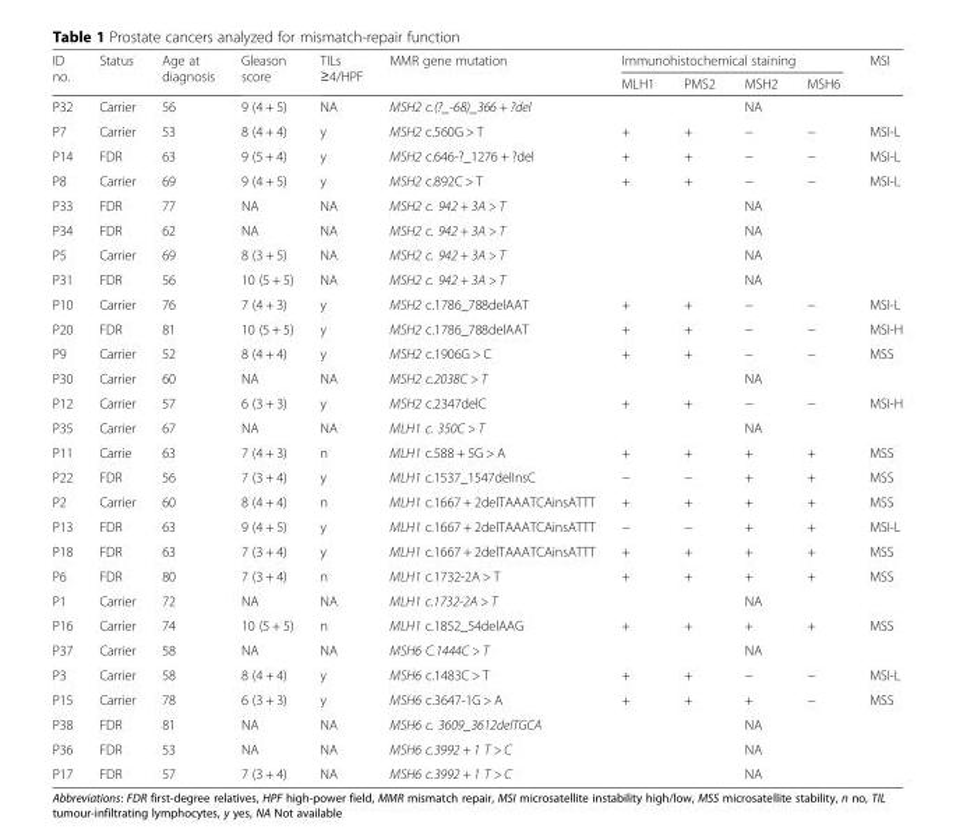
<table><thead><tr><td rowspan="2">ID no.</td><td rowspan="2">Status</td><td rowspan="2">Age at diagnosis</td><td rowspan="2">Gleason score</td><td rowspan="2">TILs ≥4/HPF</td><td rowspan="2">MMR gene mutation</td><td colspan="4">Immunohistochemical staining</td><td rowspan="2">MSI</td></tr><tr><td>MLH1</td><td>PMS2</td><td>MSH2</td><td>MSH6</td></tr></thead><tbody><tr><td>P32</td><td>Carrier</td><td>56</td><td>9 (4 + 5)</td><td>NA</td><td>MSH2 c.(?_-68)_366 + ?del</td><td></td><td></td><td>NA</td><td></td><td></td></tr><tr><td>P7</td><td>Carrier</td><td>53</td><td>8 (4 + 4)</td><td>y</td><td>MSH2 c.560G &gt; T</td><td>+</td><td>+</td><td>−</td><td>−</td><td>MSI-L</td></tr><tr><td>P14</td><td>FDR</td><td>63</td><td>9 (5 + 4)</td><td>y</td><td>MSH2 c.646-?_1276 + ?del</td><td>+</td><td>+</td><td>−</td><td>−</td><td>MSI-L</td></tr><tr><td>P8</td><td>Carrier</td><td>69</td><td>9 (4 + 5)</td><td>y</td><td>MSH2 c.892C &gt; T</td><td>+</td><td>+</td><td>−</td><td>−</td><td>MSI-L</td></tr><tr><td>P33</td><td>FDR</td><td>77</td><td>NA</td><td>NA</td><td>MSH2 c. 942 + 3A &gt; T</td><td></td><td></td><td>NA</td><td></td><td></td></tr><tr><td>P34</td><td>FDR</td><td>62</td><td>NA</td><td>NA</td><td>MSH2 c. 942 + 3A &gt; T</td><td></td><td></td><td>NA</td><td></td><td></td></tr><tr><td>P5</td><td>Carrier</td><td>69</td><td>8 (3 + 5)</td><td>NA</td><td>MSH2 c. 942 + 3A &gt; T</td><td></td><td></td><td>NA</td><td></td><td></td></tr><tr><td>P31</td><td>FDR</td><td>56</td><td>10 (5 + 5)</td><td>NA</td><td>MSH2 c. 942 + 3A &gt; T</td><td></td><td></td><td>NA</td><td></td><td></td></tr><tr><td>P10</td><td>Carrier</td><td>76</td><td>7 (4 + 3)</td><td>y</td><td>MSH2 c.1786_788delAAT</td><td>+</td><td>+</td><td>−</td><td>−</td><td>MSI-L</td></tr><tr><td>P20</td><td>FDR</td><td>81</td><td>10 (5 + 5)</td><td>y</td><td>MSH2 c.1786_788delAAT</td><td>+</td><td>+</td><td>−</td><td>−</td><td>MSI-H</td></tr><tr><td>P9</td><td>Carrier</td><td>52</td><td>8 (4 + 4)</td><td>y</td><td>MSH2 c.1906G &gt; C</td><td>+</td><td>+</td><td>−</td><td>−</td><td>MSS</td></tr><tr><td>P30</td><td>Carrier</td><td>60</td><td>NA</td><td>NA</td><td>MSH2 c.2038C &gt; T</td><td></td><td></td><td>NA</td><td></td><td></td></tr><tr><td>P12</td><td>Carrier</td><td>57</td><td>6 (3 + 3)</td><td>y</td><td>MSH2 c.2347delC</td><td>+</td><td>+</td><td>−</td><td>−</td><td>MSI-H</td></tr><tr><td>P35</td><td>Carrier</td><td>67</td><td>NA</td><td>NA</td><td>MLH1 c. 350C &gt; T</td><td></td><td></td><td>NA</td><td></td><td></td></tr><tr><td>P11</td><td>Carrie</td><td>63</td><td>7 (4 + 3)</td><td>n</td><td>MLH1 c.588 + 5G &gt; A</td><td>+</td><td>+</td><td>+</td><td>+</td><td>MSS</td></tr><tr><td>P22</td><td>FDR</td><td>56</td><td>7 (3 + 4)</td><td>y</td><td>MLH1 c.1537_1547delInsC</td><td>−</td><td>−</td><td>+</td><td>+</td><td>MSS</td></tr><tr><td>P2</td><td>Carrier</td><td>60</td><td>8 (4 + 4)</td><td>n</td><td>MLH1 c.1667 + 2delTAAATCAinsATTT</td><td>+</td><td>+</td><td>+</td><td>+</td><td>MSS</td></tr><tr><td>P13</td><td>FDR</td><td>63</td><td>9 (4 + 5)</td><td>y</td><td>MLH1 c.1667 + 2delTAAATCAinsATTT</td><td>−</td><td>−</td><td>+</td><td>+</td><td>MSI-L</td></tr><tr><td>P18</td><td>FDR</td><td>63</td><td>7 (3 + 4)</td><td>y</td><td>MLH1 c.1667 + 2delTAAATCAinsATTT</td><td>+</td><td>+</td><td>+</td><td>+</td><td>MSS</td></tr><tr><td>P6</td><td>FDR</td><td>80</td><td>7 (3 + 4)</td><td>n</td><td>MLH1 c.1732-2A &gt; T</td><td>+</td><td>+</td><td>+</td><td>+</td><td>MSS</td></tr><tr><td>P1</td><td>Carrier</td><td>72</td><td>NA</td><td>NA</td><td>MLH1 c.1732-2A &gt; T</td><td></td><td></td><td>NA</td><td></td><td></td></tr><tr><td>P16</td><td>Carrier</td><td>74</td><td>10 (5 + 5)</td><td>n</td><td>MLH1 c.1852_54delAAG</td><td>+</td><td>+</td><td>+</td><td>+</td><td>MSS</td></tr><tr><td>P37</td><td>Carrier</td><td>58</td><td>NA</td><td>NA</td><td>MSH6 C.1444C &gt; T</td><td></td><td></td><td>NA</td><td></td><td></td></tr><tr><td>P3</td><td>Carrier</td><td>58</td><td>8 (4 + 4)</td><td>y</td><td>MSH6 c.1483C &gt; T</td><td>+</td><td>+</td><td>−</td><td>−</td><td>MSI-L</td></tr><tr><td>P15</td><td>Carrier</td><td>78</td><td>6 (3 + 3)</td><td>y</td><td>MSH6 c.3647-1G &gt; A</td><td>+</td><td>+</td><td>+</td><td>−</td><td>MSS</td></tr><tr><td>P38</td><td>FDR</td><td>81</td><td>NA</td><td>NA</td><td>MSH6 c. 3609_3612delTGCA</td><td></td><td></td><td>NA</td><td></td><td></td></tr><tr><td>P36</td><td>FDR</td><td>53</td><td>NA</td><td>NA</td><td>MSH6 c.3992 + 1 T &gt; C</td><td></td><td></td><td>NA</td><td></td><td></td></tr><tr><td>P17</td><td>FDR</td><td>57</td><td>7 (3 + 4)</td><td>NA</td><td>MSH6 c.3992 + 1 T &gt; C</td><td></td><td></td><td>NA</td><td></td><td></td></tr></tbody></table>